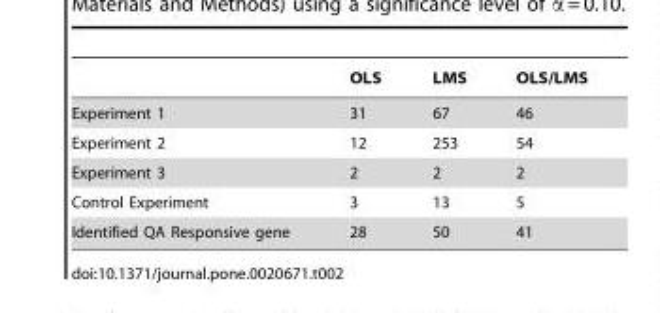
<table><thead><tr><td></td><td>OLS</td><td>LMS</td><td>OLS/LMS</td></tr></thead><tbody><tr><td>Experiment 1</td><td>31</td><td>67</td><td>46</td></tr><tr><td>Experiment 2</td><td>12</td><td>253</td><td>54</td></tr><tr><td>Experiment 3</td><td>2</td><td>2</td><td>2</td></tr><tr><td>Control Experiment</td><td>3</td><td>13</td><td>5</td></tr><tr><td>Identified QA Responsive gene</td><td>28</td><td>50</td><td>41</td></tr></tbody></table>